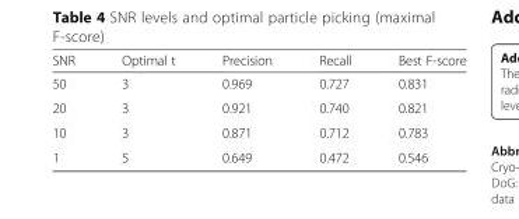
<table><thead><tr><td>SNR</td><td>Optimal t</td><td>Precision</td><td>Recall</td><td>Best F-score</td></tr></thead><tbody><tr><td>50</td><td>3</td><td>0.969</td><td>0.727</td><td>0.831</td></tr><tr><td>20</td><td>3</td><td>0.921</td><td>0.740</td><td>0.821</td></tr><tr><td>10</td><td>3</td><td>0.871</td><td>0.712</td><td>0.783</td></tr><tr><td>1</td><td>5</td><td>0.649</td><td>0.472</td><td>0.546</td></tr></tbody></table>